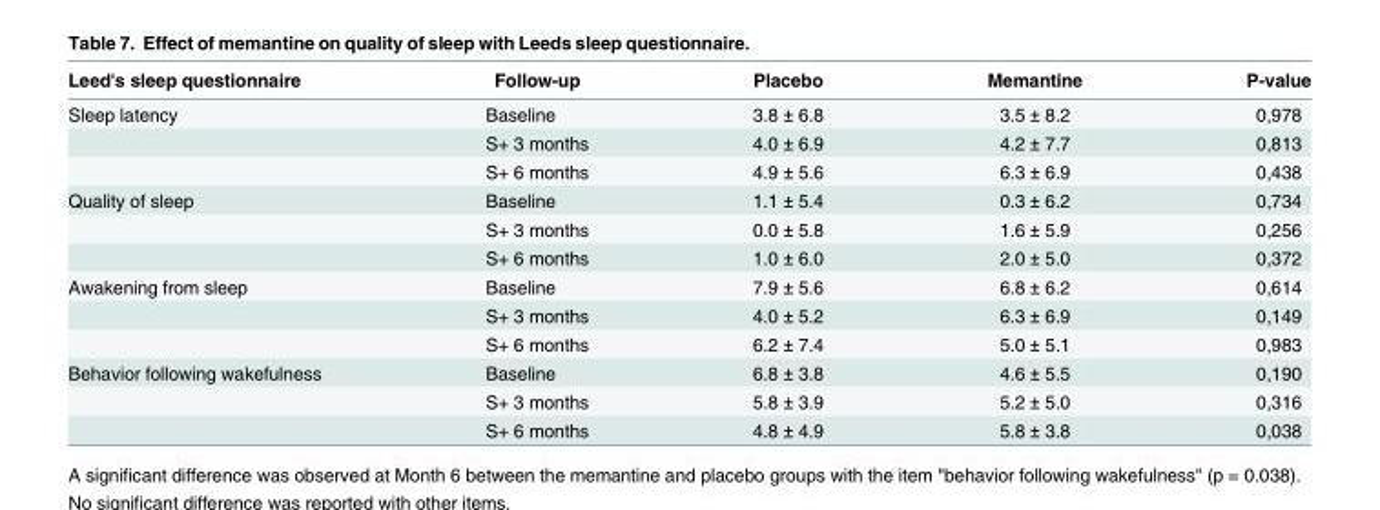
<table><thead><tr><td>Leed&#x27;s sleep questionnaire</td><td>Follow-up</td><td>Placebo</td><td>Memantine</td><td>P-value</td></tr></thead><tbody><tr><td rowspan="3">Sleep latency</td><td>Baseline</td><td>3.8 ± 6.8</td><td>3.5 ± 8.2</td><td>0,978</td></tr><tr><td>S+ 3 months</td><td>4.0 ± 6.9</td><td>4.2 ± 7.7</td><td>0,813</td></tr><tr><td>S+ 6 months</td><td>4.9 ± 5.6</td><td>6.3 ± 6.9</td><td>0,438</td></tr><tr><td rowspan="3">Quality of sleep</td><td>Baseline</td><td>1.1 ± 5.4</td><td>0.3 ± 6.2</td><td>0,734</td></tr><tr><td>S+ 3 months</td><td>0.0 ± 5.8</td><td>1.6 ± 5.9</td><td>0,256</td></tr><tr><td>S+ 6 months</td><td>1.0 ± 6.0</td><td>2.0 ± 5.0</td><td>0,372</td></tr><tr><td rowspan="3">Awakening from sleep</td><td>Baseline</td><td>7.9 ± 5.6</td><td>6.8 ± 6.2</td><td>0,614</td></tr><tr><td>S+ 3 months</td><td>4.0 ± 5.2</td><td>6.3 ± 6.9</td><td>0,149</td></tr><tr><td>S+ 6 months</td><td>6.2 ± 7.4</td><td>5.0 ± 5.1</td><td>0,983</td></tr><tr><td rowspan="3">Behavior following wakefulness</td><td>Baseline</td><td>6.8 ± 3.8</td><td>4.6 ± 5.5</td><td>0,190</td></tr><tr><td>S+ 3 months</td><td>5.8 ± 3.9</td><td>5.2 ± 5.0</td><td>0,316</td></tr><tr><td>S+ 6 months</td><td>4.8 ± 4.9</td><td>5.8 ± 3.8</td><td>0,038</td></tr></tbody></table>